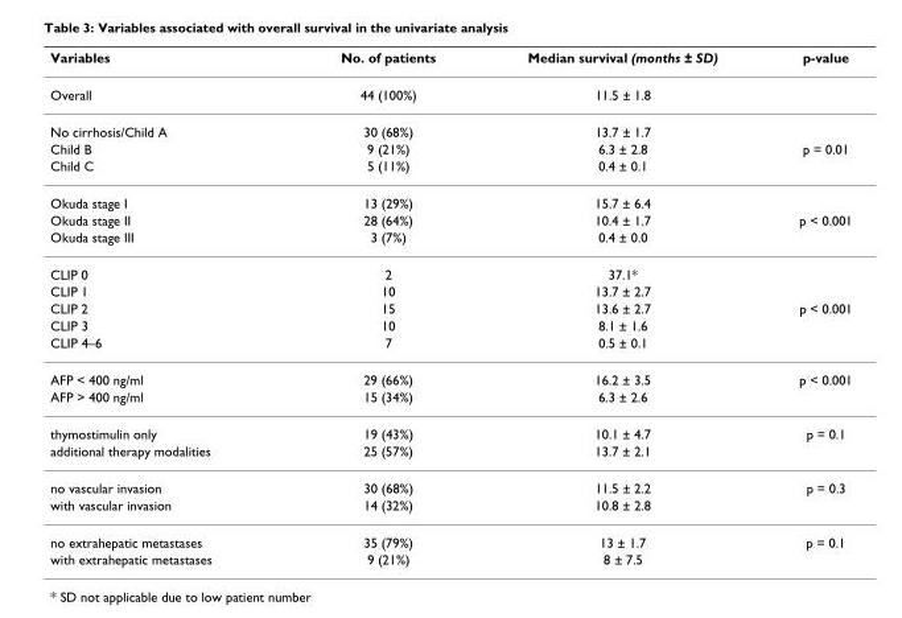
<table><thead><tr><td>Variables</td><td>No. of patients</td><td>Median survival (months ± SD)</td><td>p-value</td></tr></thead><tbody><tr><td>Overall</td><td>44 (100%)</td><td>11.5 ± 1.8</td><td></td></tr><tr><td>No cirrhosis/Child A</td><td>30 (68%)</td><td>13.7 ± 1.7</td><td></td></tr><tr><td>Child B</td><td>9 (21%)</td><td>6.3 ± 2.8</td><td>p = 0.01</td></tr><tr><td>Child C</td><td>5 (11%)</td><td>0.4 ± 0.1</td><td></td></tr><tr><td>Okuda stage I</td><td>13 (29%)</td><td>15.7 ± 6.4</td><td></td></tr><tr><td>Okuda stage II</td><td>28 (64%)</td><td>10.4 ± 1.7</td><td>p &lt; 0.001</td></tr><tr><td>Okuda stage III</td><td>3 (7%)</td><td>0.4 ± 0.0</td><td></td></tr><tr><td>CLIP 0</td><td>2</td><td>37.1*</td><td></td></tr><tr><td>CLIP 1</td><td>10</td><td>13.7 ± 2.7</td><td></td></tr><tr><td>CLIP 2</td><td>15</td><td>13.6 ± 2.7</td><td>p &lt; 0.001</td></tr><tr><td>CLIP 3</td><td>10</td><td>8.1 ± 1.6</td><td></td></tr><tr><td>CLIP 4–6</td><td>7</td><td>0.5 ± 0.1</td><td></td></tr><tr><td>AFP &lt; 400 ng/ml</td><td>29 (66%)</td><td>16.2 ± 3.5</td><td>p &lt; 0.001</td></tr><tr><td>AFP &gt; 400 ng/ml</td><td>15 (34%)</td><td>6.3 ± 2.6</td><td></td></tr><tr><td>thymostimulin only</td><td>19 (43%)</td><td>10.1 ± 4.7</td><td>p = 0.1</td></tr><tr><td>additional therapy modalities</td><td>25 (57%)</td><td>13.7 ± 2.1</td><td></td></tr><tr><td>no vascular invasion</td><td>30 (68%)</td><td>11.5 ± 2.2</td><td>p = 0.3</td></tr><tr><td>with vascular invasion</td><td>14 (32%)</td><td>10.8 ± 2.8</td><td></td></tr><tr><td>no extrahepatic metastases</td><td>35 (79%)</td><td>13 ± 1.7</td><td>p = 0.1</td></tr><tr><td>with extrahepatic metastases</td><td>9 (21%)</td><td>8 ± 7.5</td><td></td></tr></tbody></table>